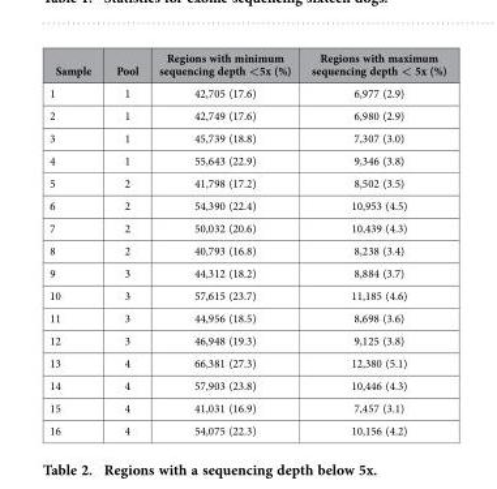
<table><thead><tr><td>Sample</td><td>Pool</td><td>Regions with minimum sequencing depth &lt;5x (%)</td><td>Regions with maximum sequencing depth &lt; 5x (%)</td></tr></thead><tbody><tr><td>1</td><td>1</td><td>42,705 (17.6)</td><td>6,977 (2.9)</td></tr><tr><td>2</td><td>1</td><td>42,749 (17.6)</td><td>6,980 (2.9)</td></tr><tr><td>3</td><td>1</td><td>45,739 (18.8)</td><td>7,307 (3.0)</td></tr><tr><td>4</td><td>1</td><td>55,643 (22.9)</td><td>9,346 (3.8)</td></tr><tr><td>5</td><td>2</td><td>41,798 (17.2)</td><td>8,502 (3.5)</td></tr><tr><td>6</td><td>2</td><td>54,390 (22.4)</td><td>10,953 (4.5)</td></tr><tr><td>7</td><td>2</td><td>50,032 (20.6)</td><td>10,439 (4.3)</td></tr><tr><td>8</td><td>2</td><td>40,793 (16.8)</td><td>8,238 (3.4)</td></tr><tr><td>9</td><td>3</td><td>44,312 (18.2)</td><td>8,884 (3.7)</td></tr><tr><td>10</td><td>3</td><td>57,615 (23.7)</td><td>11,185 (4.6)</td></tr><tr><td>11</td><td>3</td><td>44,956 (18.5)</td><td>8,698 (3.6)</td></tr><tr><td>12</td><td>3</td><td>46,948 (19.3)</td><td>9,125 (3.8)</td></tr><tr><td>13</td><td>4</td><td>66,381 (27.3)</td><td>12,380 (5.1)</td></tr><tr><td>14</td><td>4</td><td>57,903 (23.8)</td><td>10,446 (4.3)</td></tr><tr><td>15</td><td>4</td><td>41,031 (16.9)</td><td>7,457 (3.1)</td></tr><tr><td>16</td><td>4</td><td>54,075 (22.3)</td><td>10,156 (4.2)</td></tr></tbody></table>